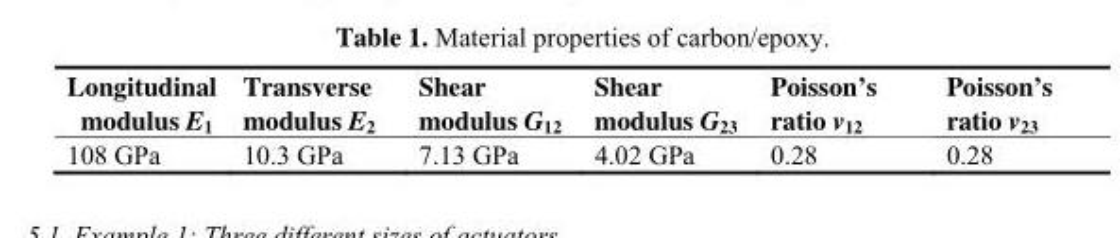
<table><thead><tr><td>Longitudinal modulus E<sub>1</sub></td><td>Transverse modulus E<sub>2</sub></td><td>Shear modulus G<sub>12</sub></td><td>Shear modulus G<sub>23</sub></td><td>Poisson’s ratio v<sub>12</sub></td><td>Poisson’s ratio v<sub>23</sub></td></tr></thead><tbody><tr><td>108 GPa</td><td>10.3 GPa</td><td>7.13 GPa</td><td>4.02 GPa</td><td>0.28</td><td>0.28</td></tr></tbody></table>